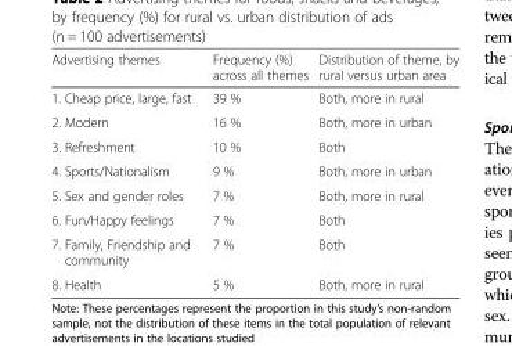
<table><thead><tr><td>Advertising themes</td><td>Frequency (%) across all themes</td><td>Distribution of theme, by rural versus urban area</td></tr></thead><tbody><tr><td>1. Cheap price, large, fast</td><td>39 %</td><td>Both, more in rural</td></tr><tr><td>2. Modern</td><td>16 %</td><td>Both, more in urban</td></tr><tr><td>3. Refreshment</td><td>10 %</td><td>Both</td></tr><tr><td>4. Sports/Nationalism</td><td>9 %</td><td>Both, more in urban</td></tr><tr><td>5. Sex and gender roles</td><td>7 %</td><td>Both, more in rural</td></tr><tr><td>6. Fun/Happy feelings</td><td>7 %</td><td>Both</td></tr><tr><td>7. Family, Friendship and community</td><td>7 %</td><td>Both</td></tr><tr><td>8. Health</td><td>5 %</td><td>Both, more in rural</td></tr></tbody></table>